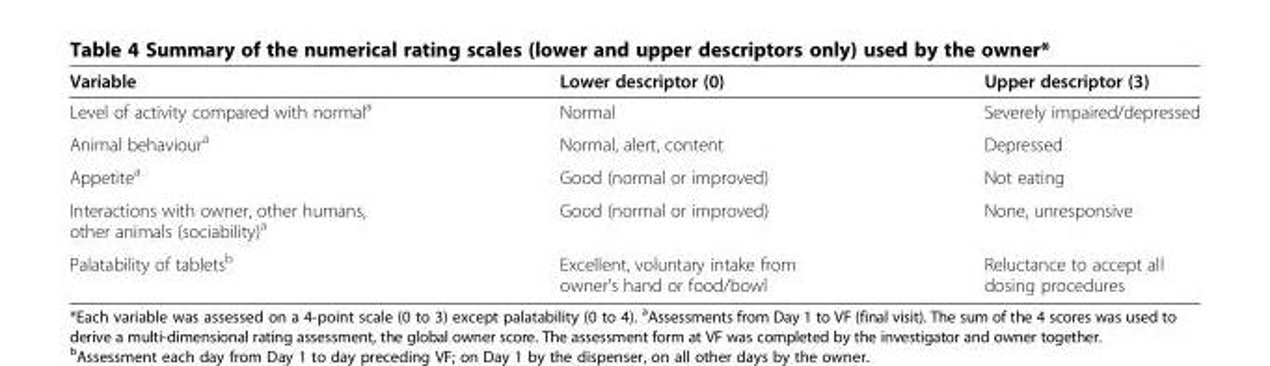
<table><thead><tr><td>Variable</td><td>Lower descriptor (0)</td><td>Upper descriptor (3)</td></tr></thead><tbody><tr><td>Level of activity compared with normal<sup>a</sup></td><td>Normal</td><td>Severely impaired/depressed</td></tr><tr><td>Animal behaviour<sup>a</sup></td><td>Normal, alert, content</td><td>Depressed</td></tr><tr><td>Appetite<sup>a</sup></td><td>Good (normal or improved)</td><td>Not eating</td></tr><tr><td>Interactions with owner, other humans, other animals (sociability)<sup>a</sup></td><td>Good (normal or improved)</td><td>None, unresponsive</td></tr><tr><td>Palatability of tablets<sup>b</sup></td><td>Excellent, voluntary intake from owner’s hand or food/bowl</td><td>Reluctance to accept all dosing procedures</td></tr></tbody></table>